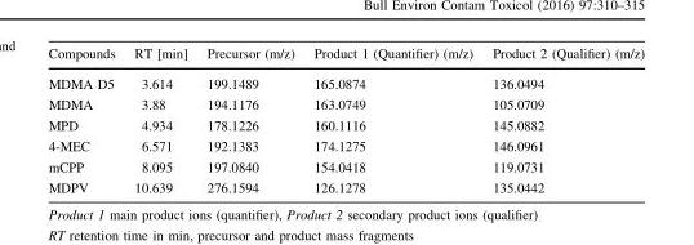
<table><thead><tr><td>Compounds</td><td>RT [min]</td><td>Precursor (m/z)</td><td>Product 1 (Quantifier) (m/z)</td><td>Product 2 (Qualifier) (m/z)</td></tr></thead><tbody><tr><td>MDMA D5</td><td>3.614</td><td>199.1489</td><td>165.0874</td><td>136.0494</td></tr><tr><td>MDMA</td><td>3.88</td><td>194.1176</td><td>163.0749</td><td>105.0709</td></tr><tr><td>MPD</td><td>4.934</td><td>178.1226</td><td>160.1116</td><td>145.0882</td></tr><tr><td>4-MEC</td><td>6.571</td><td>192.1383</td><td>174.1275</td><td>146.0961</td></tr><tr><td>mCPP</td><td>8.095</td><td>197.0840</td><td>154.0418</td><td>119.0731</td></tr><tr><td>MDPV</td><td>10.639</td><td>276.1594</td><td>126.1278</td><td>135.0442</td></tr></tbody></table>